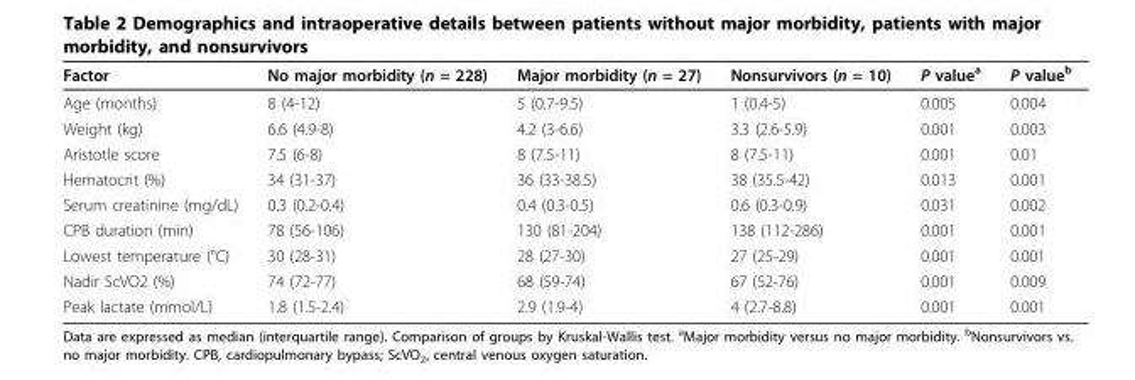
<table><thead><tr><td>Factor</td><td>No major morbidity (n = 228)</td><td>Major morbidity (n = 27)</td><td>Nonsurvivors (n = 10)</td><td>P value<sup>a</sup></td><td>P value<sup>b</sup></td></tr></thead><tbody><tr><td>Age (months)</td><td>8 (4-12)</td><td>5 (0.7-9.5)</td><td>1 (0.4-5)</td><td>0.005</td><td>0.004</td></tr><tr><td>Weight (kg)</td><td>6.6 (4.9-8)</td><td>4.2 (3-6.6)</td><td>3.3 (2.6-5.9)</td><td>0.001</td><td>0.003</td></tr><tr><td>Aristotle score</td><td>7.5 (6-8)</td><td>8 (7.5-11)</td><td>8 (7.5-11)</td><td>0.001</td><td>0.01</td></tr><tr><td>Hematocrit (%)</td><td>34 (31-37)</td><td>36 (33-38.5)</td><td>38 (35.5-42)</td><td>0.013</td><td>0.001</td></tr><tr><td>Serum creatinine (mg/dL)</td><td>0.3 (0.2-0.4)</td><td>0.4 (0.3-0.5)</td><td>0.6 (0.3-0.9)</td><td>0.031</td><td>0.002</td></tr><tr><td>CPB duration (min)</td><td>78 (56-106)</td><td>130 (81-204)</td><td>138 (112-286)</td><td>0.001</td><td>0.001</td></tr><tr><td>Lowest temperature (°C)</td><td>30 (28-31)</td><td>28 (27-30)</td><td>27 (25-29)</td><td>0.001</td><td>0.001</td></tr><tr><td>Nadir ScVO2 (%)</td><td>74 (72-77)</td><td>68 (59-74)</td><td>67 (52-76)</td><td>0.001</td><td>0.009</td></tr><tr><td>Peak lactate (mmol/L)</td><td>1.8 (1.5-2.4)</td><td>2.9 (1.9-4)</td><td>4 (2.7-8.8)</td><td>0.001</td><td>0.001</td></tr></tbody></table>